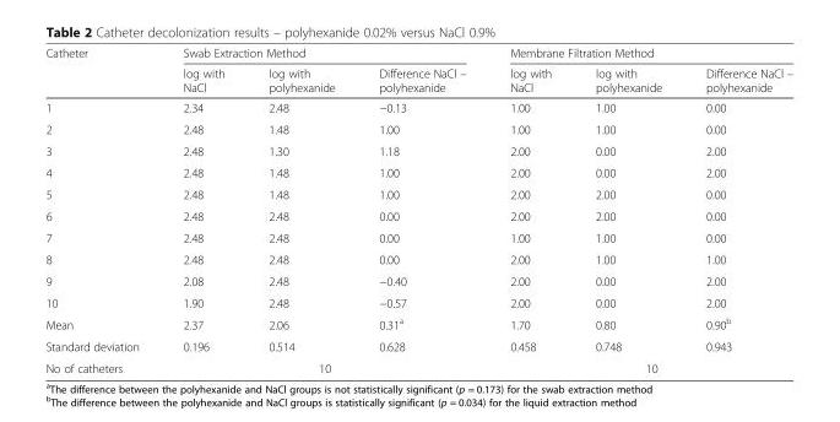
<table><thead><tr><td rowspan="2">Catheter</td><td colspan="3">Swab Extraction Method</td><td colspan="3">Membrane Filtration Method</td></tr><tr><td>log with NaCl</td><td>log with polyhexanide</td><td>Difference NaCl – polyhexanide</td><td>log with NaCl</td><td>log with polyhexanide</td><td>Difference NaCl – polyhexanide</td></tr></thead><tbody><tr><td>1</td><td>2.34</td><td>2.48</td><td>−0.13</td><td>1.00</td><td>1.00</td><td>0.00</td></tr><tr><td>2</td><td>2.48</td><td>1.48</td><td>1.00</td><td>1.00</td><td>1.00</td><td>0.00</td></tr><tr><td>3</td><td>2.48</td><td>1.30</td><td>1.18</td><td>2.00</td><td>0.00</td><td>2.00</td></tr><tr><td>4</td><td>2.48</td><td>1.48</td><td>1.00</td><td>2.00</td><td>0.00</td><td>2.00</td></tr><tr><td>5</td><td>2.48</td><td>1.48</td><td>1.00</td><td>2.00</td><td>2.00</td><td>0.00</td></tr><tr><td>6</td><td>2.48</td><td>2.48</td><td>0.00</td><td>2.00</td><td>2.00</td><td>0.00</td></tr><tr><td>7</td><td>2.48</td><td>2.48</td><td>0.00</td><td>1.00</td><td>1.00</td><td>0.00</td></tr><tr><td>8</td><td>2.48</td><td>2.48</td><td>0.00</td><td>2.00</td><td>1.00</td><td>1.00</td></tr><tr><td>9</td><td>2.08</td><td>2.48</td><td>−0.40</td><td>2.00</td><td>0.00</td><td>2.00</td></tr><tr><td>10</td><td>1.90</td><td>2.48</td><td>−0.57</td><td>2.00</td><td>0.00</td><td>2.00</td></tr><tr><td>Mean</td><td>2.37</td><td>2.06</td><td>0.31<sup>a</sup></td><td>1.70</td><td>0.80</td><td>0.90<sup>b</sup></td></tr><tr><td>Standard deviation</td><td>0.196</td><td>0.514</td><td>0.628</td><td>0.458</td><td>0.748</td><td>0.943</td></tr><tr><td>No of catheters</td><td colspan="3">10</td><td colspan="3">10</td></tr></tbody></table>